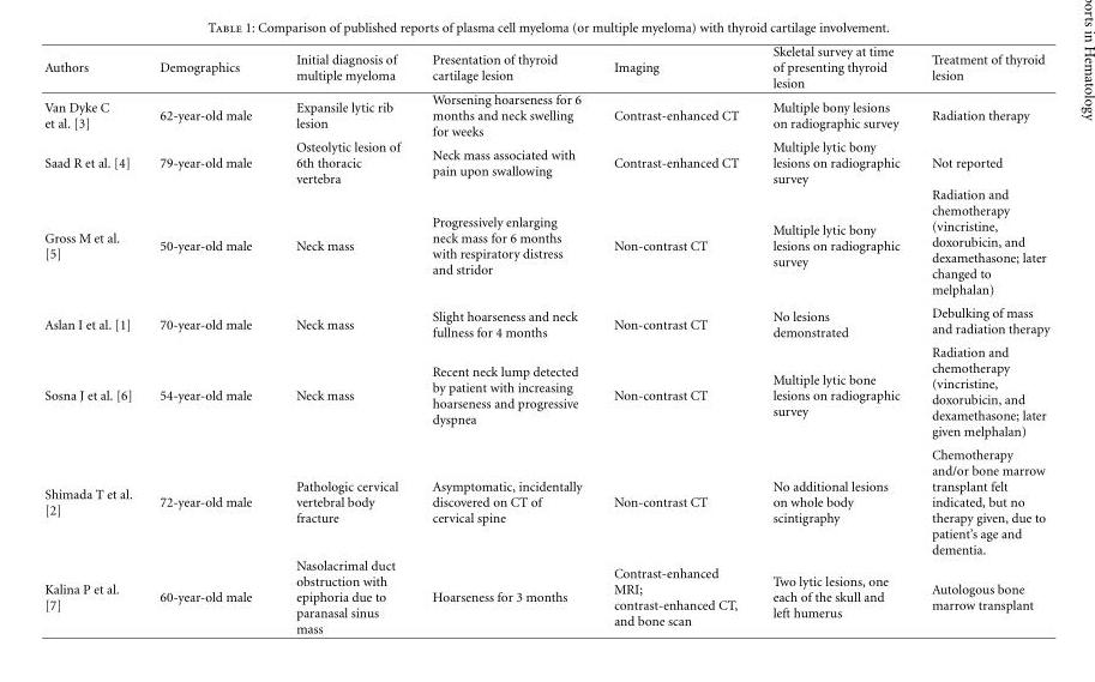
<table><thead><tr><td>Authors</td><td>Demographics</td><td>Initial diagnosis of multiple myeloma</td><td>Presentation of thyroid cartilage lesion</td><td>Imaging</td><td>Skeletal survey at time of presenting thyroid lesion</td><td>Treatment of thyroid lesion</td></tr></thead><tbody><tr><td>Van Dyke C et al. [3]</td><td>62-year-old male</td><td>Expansile lytic rib lesion</td><td>Worsening hoarseness for 6 months and neck swelling for weeks</td><td>Contrast-enhanced CT</td><td>Multiple bony lesions on radiographic survey</td><td>Radiation therapy</td></tr><tr><td>Saad R et al. [4]</td><td>79-year-old male</td><td>Osteolytic lesion of 6th thoracic vertebra</td><td>Neck mass associated with pain upon swallowing</td><td>Contrast-enhanced CT</td><td>Multiple lytic bony lesions on radiographic survey</td><td>Not reported</td></tr><tr><td>Gross M et al. [5]</td><td>50-year-old male</td><td>Neck mass</td><td>Progressively enlarging neck mass for 6 months with respiratory distress and stridor</td><td>Non-contrast CT</td><td>Multiple lytic bony lesions on radiographic survey</td><td>Radiation and chemotherapy (vincristine, doxorubicin, and dexamethasone; later changed to melphalan)</td></tr><tr><td>Aslan I et al. [1]</td><td>70-year-old male</td><td>Neck mass</td><td>Slight hoarseness and neck fullness for 4 months</td><td>Non-contrast CT</td><td>No lesions demonstrated</td><td>Debulking of mass and radiation therapy</td></tr><tr><td>Sosna J et al. [6]</td><td>54-year-old male</td><td>Neck mass</td><td>Recent neck lump detected by patient with increasing hoarseness and progressive dyspnea</td><td>Non-contrast CT</td><td>Multiple lytic bone lesions on radiographic survey</td><td>Radiation and chemotherapy (vincristine, doxorubicin, and dexamethasone; later given melphalan)</td></tr><tr><td>Shimada T et al. [2]</td><td>72-year-old male</td><td>Pathologic cervical vertebral body fracture</td><td>Asymptomatic, incidentally discovered on CT of cervical spine</td><td>Non-contrast CT</td><td>No additional lesions on whole body scintigraphy</td><td>Chemotherapy and/or bone marrow transplant felt indicated, but no therapy given, due to patient’s age and dementia.</td></tr><tr><td>Kalina P et al. [7]</td><td>60-year-old male</td><td>Nasolacrimal duct obstruction with epiphoria due to paranasal sinus mass</td><td>Hoarseness for 3 months</td><td>Contrast-enhanced MRI; contrast-enhanced CT, and bone scan</td><td>Two lytic lesions, one each of the skull and left humerus</td><td>Autologous bone marrow transplant</td></tr></tbody></table>